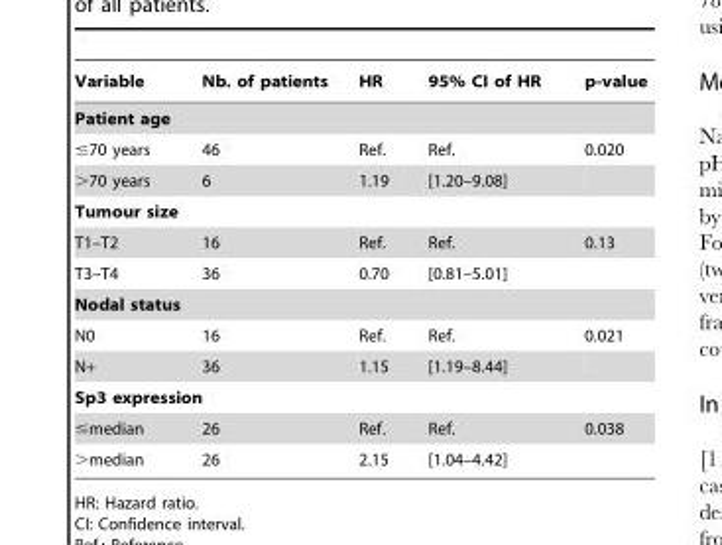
<table><thead><tr><td>Variable</td><td>Nb. of patients</td><td>HR</td><td>95% CI of HR</td><td>p-value</td></tr></thead><tbody><tr><td colspan="5">Patient age</td></tr><tr><td>≤70 years</td><td>46</td><td>Ref.</td><td>Ref.</td><td>0.020</td></tr><tr><td>&gt;70 years</td><td>6</td><td>1.19</td><td>[1.20–9.08]</td><td></td></tr><tr><td colspan="5">Tumour size</td></tr><tr><td>T1–T2</td><td>16</td><td>Ref.</td><td>Ref.</td><td>0.13</td></tr><tr><td>T3–T4</td><td>36</td><td>0.70</td><td>[0.81–5.01]</td><td></td></tr><tr><td colspan="5">Nodal status</td></tr><tr><td>N0</td><td>16</td><td>Ref.</td><td>Ref.</td><td>0.021</td></tr><tr><td>N+</td><td>36</td><td>1.15</td><td>[1.19–8.44]</td><td></td></tr><tr><td colspan="5">Sp3 expression</td></tr><tr><td>≤median</td><td>26</td><td>Ref.</td><td>Ref.</td><td>0.038</td></tr><tr><td>&gt;median</td><td>26</td><td>2.15</td><td>[1.04–4.42]</td><td></td></tr></tbody></table>